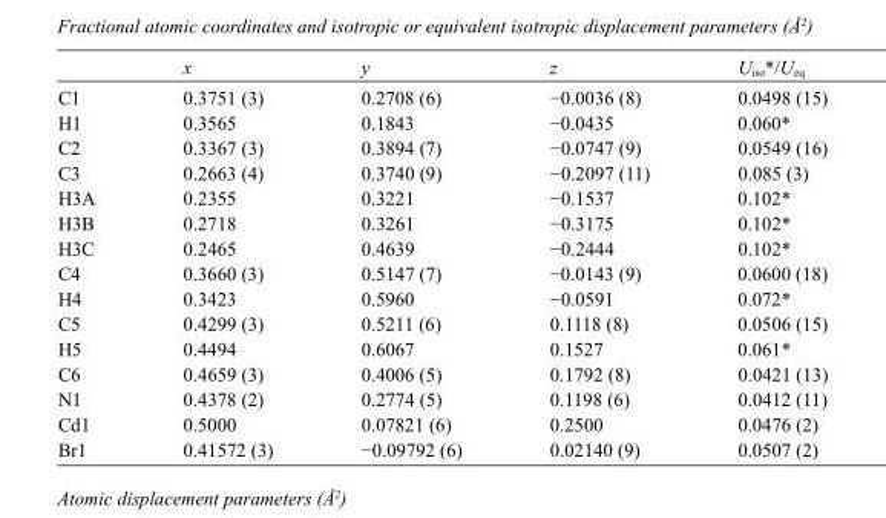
<table><thead><tr><td></td><td>x</td><td>y</td><td>z</td><td>U<sub>iso</sub>*/U<sub>eq</sub></td></tr></thead><tbody><tr><td>C1</td><td>0.3751 (3)</td><td>0.2708 (6)</td><td>−0.0036 (8)</td><td>0.0498 (15)</td></tr><tr><td>H1</td><td>0.3565</td><td>0.1843</td><td>−0.0435</td><td>0.060*</td></tr><tr><td>C2</td><td>0.3367 (3)</td><td>0.3894 (7)</td><td>−0.0747 (9)</td><td>0.0549 (16)</td></tr><tr><td>C3</td><td>0.2663 (4)</td><td>0.3740 (9)</td><td>−0.2097 (11)</td><td>0.085 (3)</td></tr><tr><td>H3A</td><td>0.2355</td><td>0.3221</td><td>−0.1537</td><td>0.102*</td></tr><tr><td>H3B</td><td>0.2718</td><td>0.3261</td><td>−0.3175</td><td>0.102*</td></tr><tr><td>H3C</td><td>0.2465</td><td>0.4639</td><td>−0.2444</td><td>0.102*</td></tr><tr><td>C4</td><td>0.3660 (3)</td><td>0.5147 (7)</td><td>−0.0143 (9)</td><td>0.0600 (18)</td></tr><tr><td>H4</td><td>0.3423</td><td>0.5960</td><td>−0.0591</td><td>0.072*</td></tr><tr><td>C5</td><td>0.4299 (3)</td><td>0.5211 (6)</td><td>0.1118 (8)</td><td>0.0506 (15)</td></tr><tr><td>H5</td><td>0.4494</td><td>0.6067</td><td>0.1527</td><td>0.061*</td></tr><tr><td>C6</td><td>0.4659 (3)</td><td>0.4006 (5)</td><td>0.1792 (8)</td><td>0.0421 (13)</td></tr><tr><td>N1</td><td>0.4378 (2)</td><td>0.2774 (5)</td><td>0.1198 (6)</td><td>0.0412 (11)</td></tr><tr><td>Cd1</td><td>0.5000</td><td>0.07821 (6)</td><td>0.2500</td><td>0.0476 (2)</td></tr><tr><td>Br1</td><td>0.41572 (3)</td><td>−0.09792 (6)</td><td>0.02140 (9)</td><td>0.0507 (2)</td></tr></tbody></table>